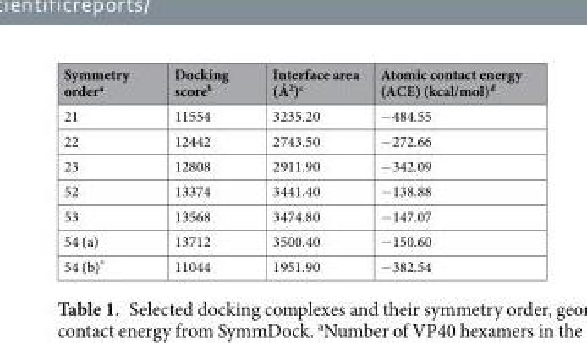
<table><thead><tr><td>Symmetry order<sup>a</sup></td><td>Docking score<sup>b</sup></td><td>Interface area (Å<sup>2</sup>)<sup>c</sup></td><td>Atomic contact energy (ACE) (kcal/mol)<sup>d</sup></td></tr></thead><tbody><tr><td>21</td><td>11554</td><td>3235.20</td><td>−484.55</td></tr><tr><td>22</td><td>12442</td><td>2743.50</td><td>−272.66</td></tr><tr><td>23</td><td>12808</td><td>2911.90</td><td>−342.09</td></tr><tr><td>52</td><td>13374</td><td>3441.40</td><td>−138.88</td></tr><tr><td>53</td><td>13568</td><td>3474.80</td><td>−147.07</td></tr><tr><td>54 (a)</td><td>13712</td><td>3500.40</td><td>−150.60</td></tr><tr><td>54 (b)*</td><td>11044</td><td>1951.90</td><td>−382.54</td></tr></tbody></table>